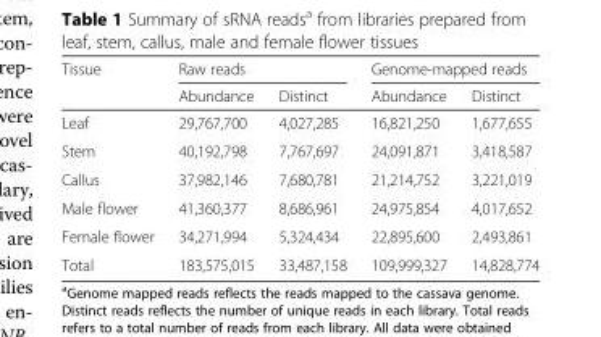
<table><thead><tr><td rowspan="2">Tissue</td><td colspan="2">Raw reads</td><td colspan="2">Genome-mapped reads</td></tr><tr><td>Abundance</td><td>Distinct</td><td>Abundance</td><td>Distinct</td></tr></thead><tbody><tr><td>Leaf</td><td>29,767,700</td><td>4,027,285</td><td>16,821,250</td><td>1,677,655</td></tr><tr><td>Stem</td><td>40,192,798</td><td>7,767,697</td><td>24,091,871</td><td>3,418,587</td></tr><tr><td>Callus</td><td>37,982,146</td><td>7,680,781</td><td>21,214,752</td><td>3,221,019</td></tr><tr><td>Male flower</td><td>41,360,377</td><td>8,686,961</td><td>24,975,854</td><td>4,017,652</td></tr><tr><td>Female flower</td><td>34,271,994</td><td>5,324,434</td><td>22,895,600</td><td>2,493,861</td></tr><tr><td>Total</td><td>183,575,015</td><td>33,487,158</td><td>109,999,327</td><td>14,828,774</td></tr></tbody></table>